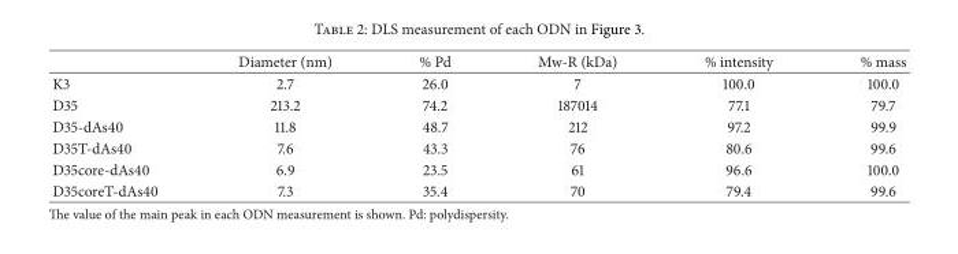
<table><thead><tr><td></td><td>Diameter (nm)</td><td>% Pd</td><td>Mw-R (kDa)</td><td>% intensity</td><td>% mass</td></tr></thead><tbody><tr><td>K3</td><td>2.7</td><td>26.0</td><td>7</td><td>100.0</td><td>100.0</td></tr><tr><td>D35</td><td>213.2</td><td>74.2</td><td>187014</td><td>77.1</td><td>79.7</td></tr><tr><td>D35-dAs40</td><td>11.8</td><td>48.7</td><td>212</td><td>97.2</td><td>99.9</td></tr><tr><td>D35T-dAs40</td><td>7.6</td><td>43.3</td><td>76</td><td>80.6</td><td>99.6</td></tr><tr><td>D35core-dAs40</td><td>6.9</td><td>23.5</td><td>61</td><td>96.6</td><td>100.0</td></tr><tr><td>D35coreT-dAs40</td><td>7.3</td><td>35.4</td><td>70</td><td>79.4</td><td>99.6</td></tr></tbody></table>